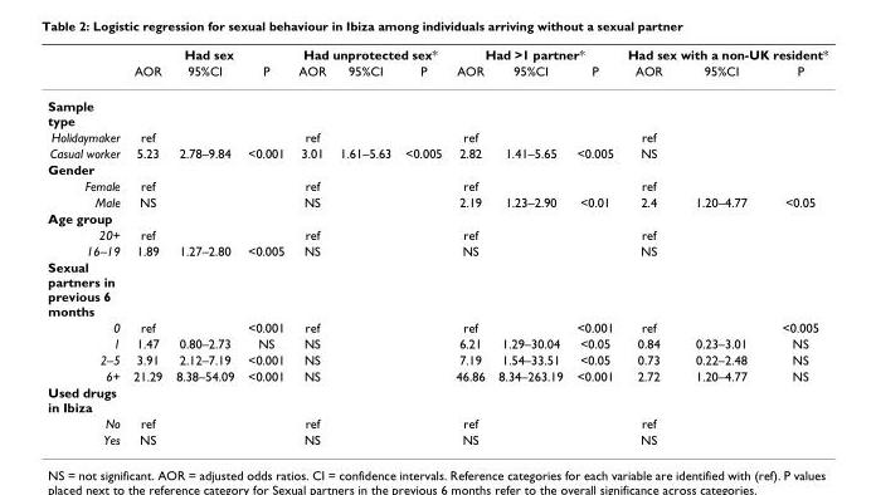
<table><thead><tr><td rowspan="2"></td><td colspan="3">Had sex</td><td colspan="3">Had unprotected sex*</td><td colspan="3">Had &gt;1 partner*</td><td colspan="3">Had sex with a non-UK resident*</td></tr><tr><td>AOR</td><td>95%CI</td><td>P</td><td>AOR</td><td>95%CI</td><td>P</td><td>AOR</td><td>95%CI</td><td>P</td><td>AOR</td><td>95%CI</td><td>P</td></tr></thead><tbody><tr><td colspan="13">Sample type</td></tr><tr><td>Holidaymaker</td><td>ref</td><td></td><td></td><td>ref</td><td></td><td></td><td>ref</td><td></td><td></td><td>ref</td><td></td><td></td></tr><tr><td>Casual worker</td><td>5.23</td><td>2.78–9.84</td><td>&lt;0.001</td><td>3.01</td><td>1.61–5.63</td><td>&lt;0.005</td><td>2.82</td><td>1.41–5.65</td><td>&lt;0.005</td><td>NS</td><td></td><td></td></tr><tr><td colspan="13">Gender</td></tr><tr><td>Female</td><td>ref</td><td></td><td></td><td>ref</td><td></td><td></td><td>ref</td><td></td><td></td><td>ref</td><td></td><td></td></tr><tr><td>Male</td><td>NS</td><td></td><td></td><td>NS</td><td></td><td></td><td>2.19</td><td>1.23–2.90</td><td>&lt;0.01</td><td>2.4</td><td>1.20–4.77</td><td>&lt;0.05</td></tr><tr><td colspan="13">Age group</td></tr><tr><td>20+</td><td>ref</td><td></td><td></td><td>ref</td><td></td><td></td><td>ref</td><td></td><td></td><td>ref</td><td></td><td></td></tr><tr><td>16–19</td><td>1.89</td><td>1.27–2.80</td><td>&lt;0.005</td><td>NS</td><td></td><td></td><td>NS</td><td></td><td></td><td>NS</td><td></td><td></td></tr><tr><td colspan="13">Sexual partners in previous 6 months</td></tr><tr><td>0</td><td>ref</td><td></td><td>&lt;0.001</td><td>ref</td><td></td><td></td><td>ref</td><td></td><td>&lt;0.001</td><td>ref</td><td></td><td>&lt;0.005</td></tr><tr><td>1</td><td>1.47</td><td>0.80–2.73</td><td>NS</td><td>NS</td><td></td><td></td><td>6.21</td><td>1.29–30.04</td><td>&lt;0.05</td><td>0.84</td><td>0.23–3.01</td><td>NS</td></tr><tr><td>2–5</td><td>3.91</td><td>2.12–7.19</td><td>&lt;0.001</td><td>NS</td><td></td><td></td><td>7.19</td><td>1.54–33.51</td><td>&lt;0.05</td><td>0.73</td><td>0.22–2.48</td><td>NS</td></tr><tr><td>6+</td><td>21.29</td><td>8.38–54.09</td><td>&lt;0.001</td><td>NS</td><td></td><td></td><td>46.86</td><td>8.34–263.19</td><td>&lt;0.001</td><td>2.72</td><td>1.20–4.77</td><td>NS</td></tr><tr><td colspan="13">Used drugs in Ibiza</td></tr><tr><td>No</td><td>ref</td><td></td><td></td><td>ref</td><td></td><td></td><td>ref</td><td></td><td></td><td>ref</td><td></td><td></td></tr><tr><td>Yes</td><td>NS</td><td></td><td></td><td>NS</td><td></td><td></td><td>NS</td><td></td><td></td><td>NS</td><td></td><td></td></tr></tbody></table>